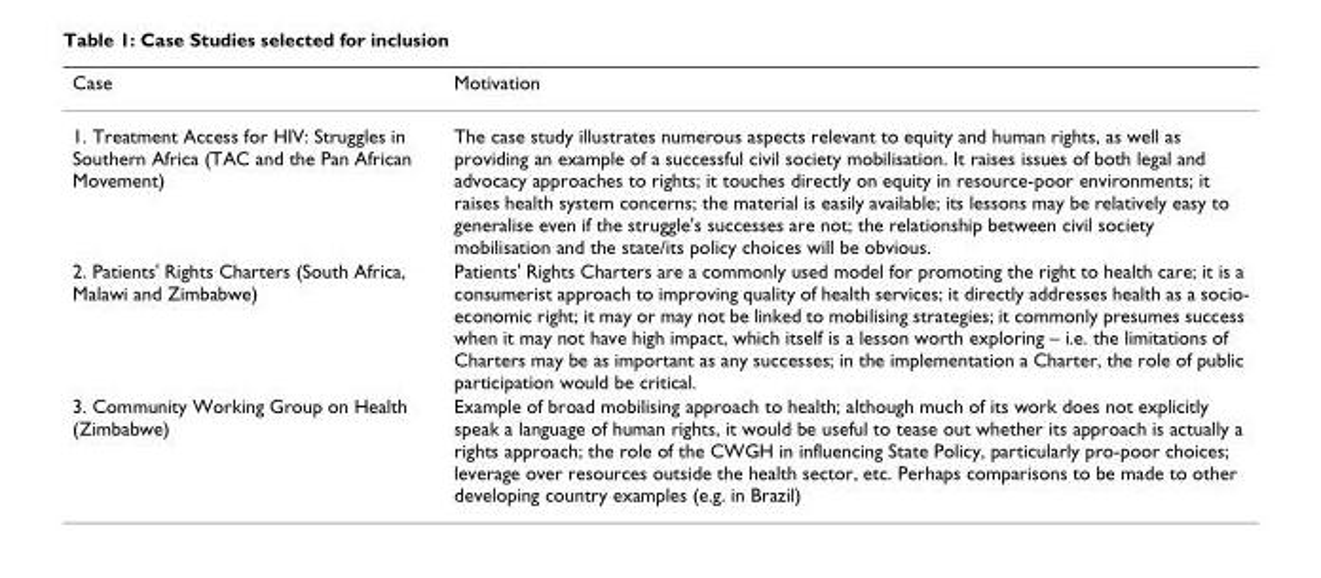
<table><thead><tr><td>Case</td><td>Motivation</td></tr></thead><tbody><tr><td>1. Treatment Access for HIV: Struggles in Southern Africa (TAC and the Pan African Movement)</td><td>The case study illustrates numerous aspects relevant to equity and human rights, as well as providing an example of a successful civil society mobilisation. It raises issues of both legal and advocacy approaches to rights; it touches directly on equity in resource-poor environments; it raises health system concerns; the material is easily available; its lessons may be relatively easy to generalise even if the struggle&#x27;s successes are not; the relationship between civil society mobilisation and the state/its policy choices will be obvious.</td></tr><tr><td>2. Patients&#x27; Rights Charters (South Africa, Malawi and Zimbabwe)</td><td>Patients&#x27; Rights Charters are a commonly used model for promoting the right to health care; it is a consumerist approach to improving quality of health services; it directly addresses health as a socio- economic right; it may or may not be linked to mobilising strategies; it commonly presumes success when it may not have high impact, which itself is a lesson worth exploring – i.e. the limitations of Charters may be as important as any successes; in the implementation a Charter, the role of public participation would be critical.</td></tr><tr><td>3. Community Working Group on Health (Zimbabwe)</td><td>Example of broad mobilising approach to health; although much of its work does not explicitly speak a language of human rights, it would be useful to tease out whether its approach is actually a rights approach; the role of the CWGH in influencing State Policy, particularly pro-poor choices; leverage over resources outside the health sector, etc. Perhaps comparisons to be made to other developing country examples (e.g. in Brazil)</td></tr></tbody></table>